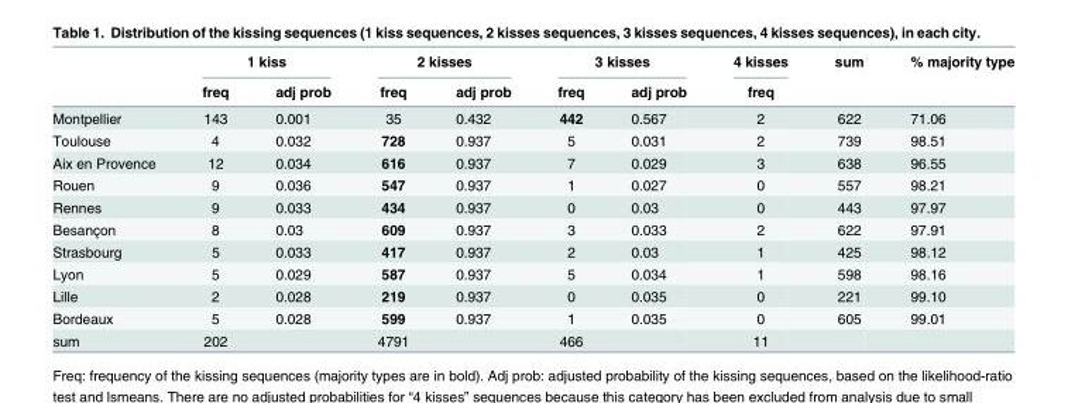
<table><thead><tr><td rowspan="2"></td><td colspan="2">1 kiss</td><td colspan="2">2 kisses</td><td colspan="2">3 kisses</td><td rowspan="2">4 kisses freq</td><td rowspan="2">sum</td><td rowspan="2">% majority type</td></tr><tr><td>freq</td><td>adj prob</td><td>freq</td><td>adj prob</td><td>freq</td><td>adj prob</td></tr></thead><tbody><tr><td>Montpellier</td><td>143</td><td>0.001</td><td>35</td><td>0.432</td><td>442</td><td>0.567</td><td>2</td><td>622</td><td>71.06</td></tr><tr><td>Toulouse</td><td>4</td><td>0.032</td><td>728</td><td>0.937</td><td>5</td><td>0.031</td><td>2</td><td>739</td><td>98.51</td></tr><tr><td>Aix en Provence</td><td>12</td><td>0.034</td><td>616</td><td>0.937</td><td>7</td><td>0.029</td><td>3</td><td>638</td><td>96.55</td></tr><tr><td>Rouen</td><td>9</td><td>0.036</td><td>547</td><td>0.937</td><td>1</td><td>0.027</td><td>0</td><td>557</td><td>98.21</td></tr><tr><td>Rennes</td><td>9</td><td>0.033</td><td>434</td><td>0.937</td><td>0</td><td>0.03</td><td>0</td><td>443</td><td>97.97</td></tr><tr><td>Besançon</td><td>8</td><td>0.03</td><td>609</td><td>0.937</td><td>3</td><td>0.033</td><td>2</td><td>622</td><td>97.91</td></tr><tr><td>Strasbourg</td><td>5</td><td>0.033</td><td>417</td><td>0.937</td><td>2</td><td>0.03</td><td>1</td><td>425</td><td>98.12</td></tr><tr><td>Lyon</td><td>5</td><td>0.029</td><td>587</td><td>0.937</td><td>5</td><td>0.034</td><td>1</td><td>598</td><td>98.16</td></tr><tr><td>Lille</td><td>2</td><td>0.028</td><td>219</td><td>0.937</td><td>0</td><td>0.035</td><td>0</td><td>221</td><td>99.10</td></tr><tr><td>Bordeaux</td><td>5</td><td>0.028</td><td>599</td><td>0.937</td><td>1</td><td>0.035</td><td>0</td><td>605</td><td>99.01</td></tr><tr><td>sum</td><td>202</td><td></td><td>4791</td><td></td><td>466</td><td></td><td>11</td><td></td><td></td></tr></tbody></table>